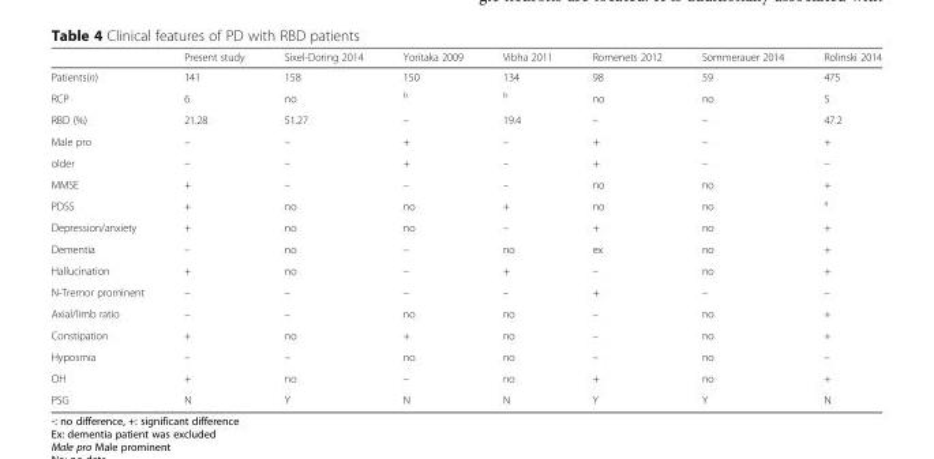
<table><thead><tr><td></td><td>Present study</td><td>Sixel-Doring 2014</td><td>Yoritaka 2009</td><td>Vibha 2011</td><td>Romenets 2012</td><td>Sommerauer 2014</td><td>Rolinski 2014</td></tr></thead><tbody><tr><td>Patients(n)</td><td>141</td><td>158</td><td>150</td><td>134</td><td>98</td><td>59</td><td>475</td></tr><tr><td>RCP</td><td>6</td><td>no</td><td><sup>b</sup></td><td><sup>b</sup></td><td>no</td><td>no</td><td>5</td></tr><tr><td>RBD (%)</td><td>21.28</td><td>51.27</td><td>–</td><td>19.4</td><td>–</td><td>–</td><td>47.2</td></tr><tr><td>Male pro</td><td>–</td><td>–</td><td>+</td><td>–</td><td>+</td><td>–</td><td>+</td></tr><tr><td>older</td><td>–</td><td>–</td><td>+</td><td>–</td><td>+</td><td>–</td><td>–</td></tr><tr><td>MMSE</td><td>+</td><td>–</td><td>–</td><td>–</td><td>no</td><td>no</td><td>+</td></tr><tr><td>PDSS</td><td>+</td><td>no</td><td>no</td><td>+</td><td>no</td><td>no</td><td><sup>a</sup></td></tr><tr><td>Depression/anxiety</td><td>+</td><td>no</td><td>no</td><td>–</td><td>+</td><td>no</td><td>+</td></tr><tr><td>Dementia</td><td>–</td><td>no</td><td>–</td><td>no</td><td>ex</td><td>no</td><td>+</td></tr><tr><td>Hallucination</td><td>+</td><td>no</td><td>–</td><td>+</td><td>–</td><td>no</td><td>+</td></tr><tr><td>N-Tremor prominent</td><td>–</td><td>–</td><td>–</td><td>–</td><td>+</td><td>–</td><td>–</td></tr><tr><td>Axial/limb ratio</td><td>–</td><td>–</td><td>no</td><td>no</td><td>–</td><td>no</td><td>+</td></tr><tr><td>Constipation</td><td>+</td><td>no</td><td>+</td><td>no</td><td>–</td><td>no</td><td>+</td></tr><tr><td>Hyposmia</td><td>–</td><td>–</td><td>no</td><td>no</td><td>–</td><td>no</td><td>–</td></tr><tr><td>OH</td><td>+</td><td>no</td><td>–</td><td>no</td><td>+</td><td>no</td><td>+</td></tr><tr><td>PSG</td><td>N</td><td>Y</td><td>N</td><td>N</td><td>Y</td><td>Y</td><td>N</td></tr></tbody></table>